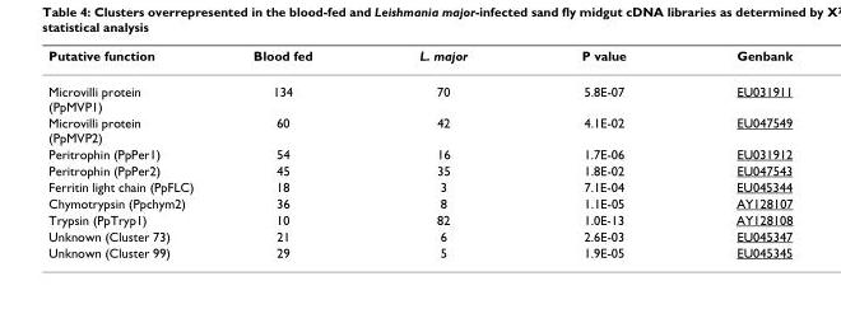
<table><thead><tr><td>Putative function</td><td>Blood fed</td><td>L. major</td><td>P value</td><td>Genbank</td></tr></thead><tbody><tr><td>Microvilli protein (PpMVP1)</td><td>134</td><td>70</td><td>5.8E-07</td><td>EU031911</td></tr><tr><td>Microvilli protein (PpMVP2)</td><td>60</td><td>42</td><td>4.1E-02</td><td>EU047549</td></tr><tr><td>Peritrophin (PpPer1)</td><td>54</td><td>16</td><td>1.7E-06</td><td>EU031912</td></tr><tr><td>Peritrophin (PpPer2)</td><td>45</td><td>35</td><td>1.8E-02</td><td>EU047543</td></tr><tr><td>Ferritin light chain (PpFLC)</td><td>18</td><td>3</td><td>7.1E-04</td><td>EU045344</td></tr><tr><td>Chymotrypsin (Ppchym2)</td><td>36</td><td>8</td><td>1.1E-05</td><td>AY128107</td></tr><tr><td>Trypsin (PpTryp1)</td><td>10</td><td>82</td><td>1.0E-13</td><td>AY128108</td></tr><tr><td>Unknown (Cluster 73)</td><td>21</td><td>6</td><td>2.6E-03</td><td>EU045347</td></tr><tr><td>Unknown (Cluster 99)</td><td>29</td><td>5</td><td>1.9E-05</td><td>EU045345</td></tr></tbody></table>